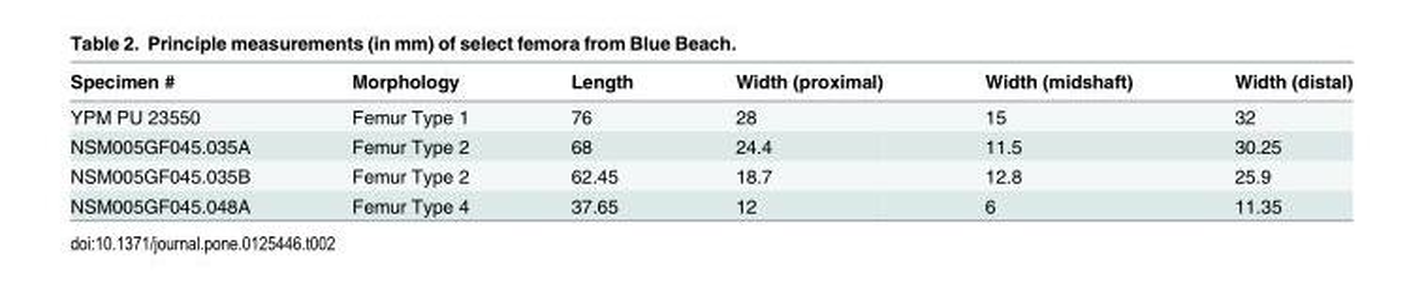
<table><thead><tr><td>Specimen #</td><td>Morphology</td><td>Length</td><td>Width (proximal)</td><td>Width (midshaft)</td><td>Width (distal)</td></tr></thead><tbody><tr><td>YPM PU 23550</td><td>Femur Type 1</td><td>76</td><td>28</td><td>15</td><td>32</td></tr><tr><td>NSM005GF045.035A</td><td>Femur Type 2</td><td>68</td><td>24.4</td><td>11.5</td><td>30.25</td></tr><tr><td>NSM005GF045.035B</td><td>Femur Type 2</td><td>62.45</td><td>18.7</td><td>12.8</td><td>25.9</td></tr><tr><td>NSM005GF045.048A</td><td>Femur Type 4</td><td>37.65</td><td>12</td><td>6</td><td>11.35</td></tr></tbody></table>